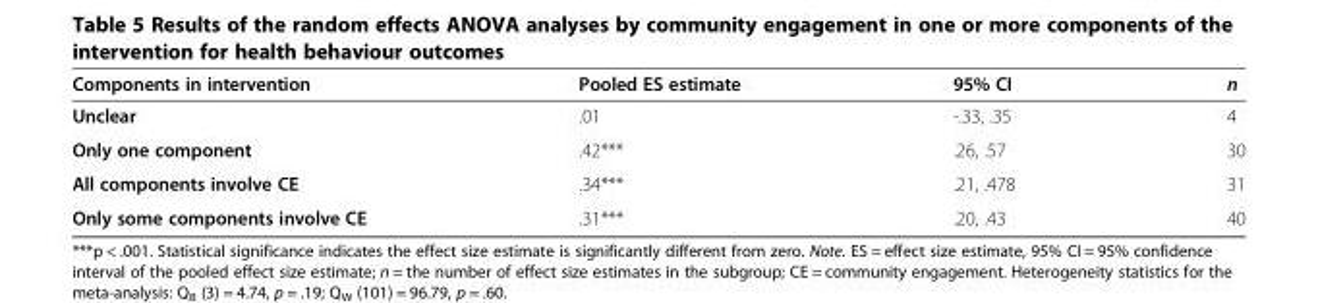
<table><thead><tr><td>Components in intervention</td><td>Pooled ES estimate</td><td>95% CI</td><td>n</td></tr></thead><tbody><tr><td>Unclear</td><td>.01</td><td>-.33, .35</td><td>4</td></tr><tr><td>Only one component</td><td>.42***</td><td>.26, .57</td><td>30</td></tr><tr><td>All components involve CE</td><td>.34***</td><td>.21, .478</td><td>31</td></tr><tr><td>Only some components involve CE</td><td>.31***</td><td>.20, .43</td><td>40</td></tr></tbody></table>